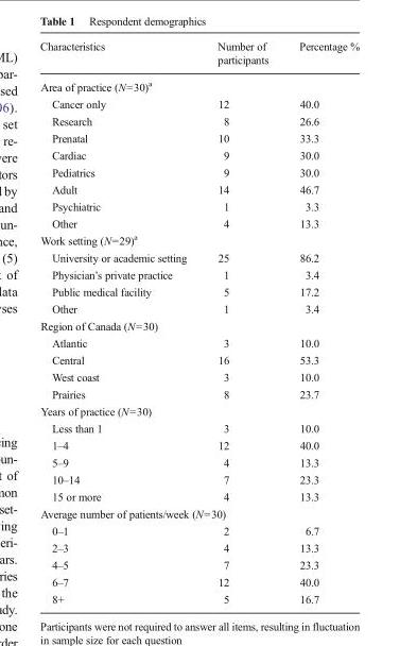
<table><thead><tr><td>Characteristics</td><td>Number of participants</td><td>Percentage %</td></tr></thead><tbody><tr><td colspan="3">Area of practice (N=30)<sup>a</sup></td></tr><tr><td>Cancer only</td><td>12</td><td>40.0</td></tr><tr><td>Research</td><td>8</td><td>26.6</td></tr><tr><td>Prenatal</td><td>10</td><td>33.3</td></tr><tr><td>Cardiac</td><td>9</td><td>30.0</td></tr><tr><td>Pediatrics</td><td>9</td><td>30.0</td></tr><tr><td>Adult</td><td>14</td><td>46.7</td></tr><tr><td>Psychiatric</td><td>1</td><td>3.3</td></tr><tr><td>Other</td><td>4</td><td>13.3</td></tr><tr><td colspan="3">Work setting (N=29)<sup>a</sup></td></tr><tr><td>University or academic setting</td><td>25</td><td>86.2</td></tr><tr><td>Physician’s private practice</td><td>1</td><td>3.4</td></tr><tr><td>Public medical facility</td><td>5</td><td>17.2</td></tr><tr><td>Other</td><td>1</td><td>3.4</td></tr><tr><td colspan="3">Region of Canada (N=30)</td></tr><tr><td>Atlantic</td><td>3</td><td>10.0</td></tr><tr><td>Central</td><td>16</td><td>53.3</td></tr><tr><td>West coast</td><td>3</td><td>10.0</td></tr><tr><td>Prairies</td><td>8</td><td>23.7</td></tr><tr><td colspan="3">Years of practice (N=30)</td></tr><tr><td>Less than 1</td><td>3</td><td>10.0</td></tr><tr><td>1–4</td><td>12</td><td>40.0</td></tr><tr><td>5–9</td><td>4</td><td>13.3</td></tr><tr><td>10–14</td><td>7</td><td>23.3</td></tr><tr><td>15 or more</td><td>4</td><td>13.3</td></tr><tr><td colspan="3">Average number of patients/week (N=30)</td></tr><tr><td>0–1</td><td>2</td><td>6.7</td></tr><tr><td>2–3</td><td>4</td><td>13.3</td></tr><tr><td>4–5</td><td>7</td><td>23.3</td></tr><tr><td>6–7</td><td>12</td><td>40.0</td></tr><tr><td>8+</td><td>5</td><td>16.7</td></tr></tbody></table>